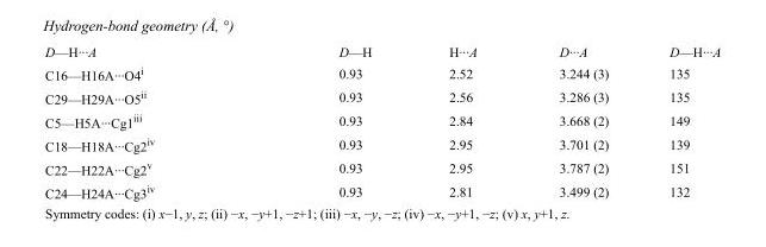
<table><tbody><tr><td>D—H···A</td><td>D—H</td><td>H···A</td><td>D···A</td><td>D—H···A</td></tr><tr><td>C16—H16A···O4<sup>i</sup></td><td>0.93</td><td>2.52</td><td>3.244 (3)</td><td>135</td></tr><tr><td>C29—H29A···O5<sup>ii</sup></td><td>0.93</td><td>2.56</td><td>3.286 (3)</td><td>135</td></tr><tr><td>C5—H5A···Cg1<sup>iii</sup></td><td>0.93</td><td>2.84</td><td>3.668 (2)</td><td>149</td></tr><tr><td>C18—H18A···Cg2<sup>iv</sup></td><td>0.93</td><td>2.95</td><td>3.701 (2)</td><td>139</td></tr><tr><td>C22—H22A···Cg2<sup>v</sup></td><td>0.93</td><td>2.95</td><td>3.787 (2)</td><td>151</td></tr><tr><td>C24—H24A···Cg3<sup>iv</sup></td><td>0.93</td><td>2.81</td><td>3.499 (2)</td><td>132</td></tr></tbody></table>